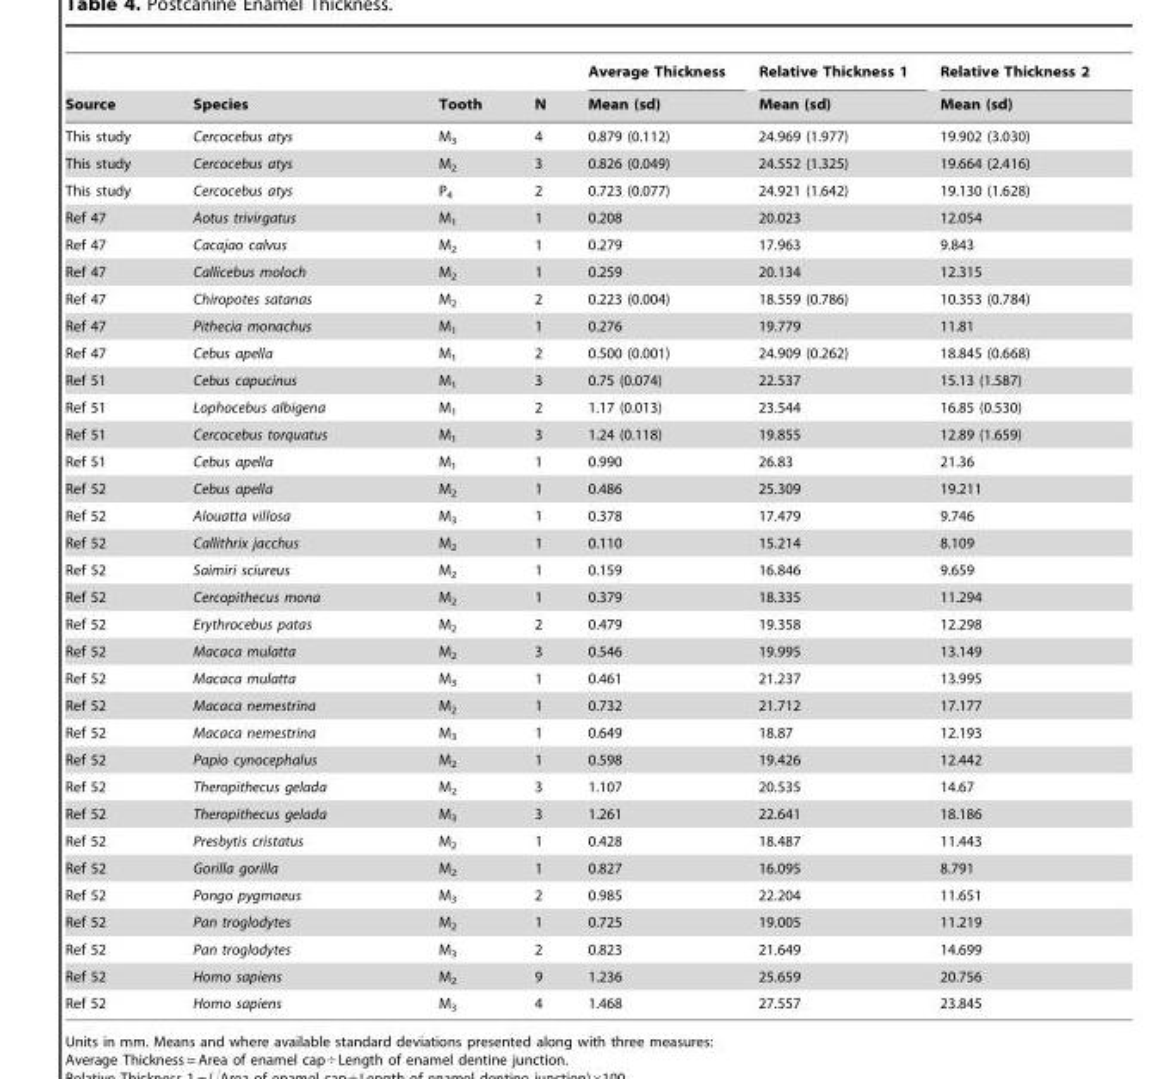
<table><thead><tr><td rowspan="2">Source</td><td rowspan="2">Species</td><td rowspan="2">Tooth</td><td rowspan="2">N</td><td rowspan="2">Average Thickness Mean (sd)</td><td rowspan="2">Relative Thickness 1 Mean (sd)</td><td rowspan="2">Relative Thickness 2 Mean (sd)</td></tr><tr></tr></thead><tbody><tr><td>This study</td><td>Cercocebus atys</td><td>M<sub>3</sub></td><td>4</td><td>0.879 (0.112)</td><td>24.969 (1.977)</td><td>19.902 (3.030)</td></tr><tr><td>This study</td><td>Cercocebus atys</td><td>M<sub>2</sub></td><td>3</td><td>0.826 (0.049)</td><td>24.552 (1.325)</td><td>19.664 (2.416)</td></tr><tr><td>This study</td><td>Cercocebus atys</td><td>P<sub>4</sub></td><td>2</td><td>0.723 (0.077)</td><td>24.921 (1.642)</td><td>19.130 (1.628)</td></tr><tr><td>Ref 47</td><td>Aotus trivirgatus</td><td>M<sub>1</sub></td><td>1</td><td>0.208</td><td>20.023</td><td>12.054</td></tr><tr><td>Ref 47</td><td>Cacajao calvus</td><td>M<sub>2</sub></td><td>1</td><td>0.279</td><td>17.963</td><td>9.843</td></tr><tr><td>Ref 47</td><td>Callicebus moloch</td><td>M<sub>2</sub></td><td>1</td><td>0.259</td><td>20.134</td><td>12.315</td></tr><tr><td>Ref 47</td><td>Chiropotes satanas</td><td>M<sub>2</sub></td><td>2</td><td>0.223 (0.004)</td><td>18.559 (0.786)</td><td>10.353 (0.784)</td></tr><tr><td>Ref 47</td><td>Pithecia monachus</td><td>M<sub>1</sub></td><td>1</td><td>0.276</td><td>19.779</td><td>11.81</td></tr><tr><td>Ref 47</td><td>Cebus apella</td><td>M<sub>1</sub></td><td>2</td><td>0.500 (0.001)</td><td>24.909 (0.262)</td><td>18.845 (0.668)</td></tr><tr><td>Ref 51</td><td>Cebus capucinus</td><td>M<sub>1</sub></td><td>3</td><td>0.75 (0.074)</td><td>22.537</td><td>15.13 (1.587)</td></tr><tr><td>Ref 51</td><td>Lophocebus albigena</td><td>M<sub>1</sub></td><td>2</td><td>1.17 (0.013)</td><td>23.544</td><td>16.85 (0.530)</td></tr><tr><td>Ref 51</td><td>Cercocebus torquatus</td><td>M<sub>1</sub></td><td>3</td><td>1.24 (0.118)</td><td>19.855</td><td>12.89 (1.659)</td></tr><tr><td>Ref 51</td><td>Cebus apella</td><td>M<sub>1</sub></td><td>1</td><td>0.990</td><td>26.83</td><td>21.36</td></tr><tr><td>Ref 52</td><td>Cebus apella</td><td>M<sub>2</sub></td><td>1</td><td>0.486</td><td>25.309</td><td>19.211</td></tr><tr><td>Ref 52</td><td>Alouatta villosa</td><td>M<sub>3</sub></td><td>1</td><td>0.378</td><td>17.479</td><td>9.746</td></tr><tr><td>Ref 52</td><td>Callithrix jacchus</td><td>M<sub>2</sub></td><td>1</td><td>0.110</td><td>15.214</td><td>8.109</td></tr><tr><td>Ref 52</td><td>Saimiri sciureus</td><td>M<sub>2</sub></td><td>1</td><td>0.159</td><td>16.846</td><td>9.659</td></tr><tr><td>Ref 52</td><td>Cercopithecus mona</td><td>M<sub>2</sub></td><td>1</td><td>0.379</td><td>18.335</td><td>11.294</td></tr><tr><td>Ref 52</td><td>Erythrocebus patas</td><td>M<sub>2</sub></td><td>2</td><td>0.479</td><td>19.358</td><td>12.298</td></tr><tr><td>Ref 52</td><td>Macaca mulatta</td><td>M<sub>2</sub></td><td>3</td><td>0.546</td><td>19.995</td><td>13.149</td></tr><tr><td>Ref 52</td><td>Macaca mulatta</td><td>M<sub>3</sub></td><td>1</td><td>0.461</td><td>21.237</td><td>13.995</td></tr><tr><td>Ref 52</td><td>Macaca nemestrina</td><td>M<sub>2</sub></td><td>1</td><td>0.732</td><td>21.712</td><td>17.177</td></tr><tr><td>Ref 52</td><td>Macaca nemestrina</td><td>M<sub>3</sub></td><td>1</td><td>0.649</td><td>18.87</td><td>12.193</td></tr><tr><td>Ref 52</td><td>Papio cynocephalus</td><td>M<sub>2</sub></td><td>1</td><td>0.598</td><td>19.426</td><td>12.442</td></tr><tr><td>Ref 52</td><td>Theropithecus gelada</td><td>M<sub>2</sub></td><td>3</td><td>1.107</td><td>20.535</td><td>14.67</td></tr><tr><td>Ref 52</td><td>Theropithecus gelada</td><td>M<sub>3</sub></td><td>3</td><td>1.261</td><td>22.641</td><td>18.186</td></tr><tr><td>Ref 52</td><td>Presbytis cristatus</td><td>M<sub>2</sub></td><td>1</td><td>0.428</td><td>18.487</td><td>11.443</td></tr><tr><td>Ref 52</td><td>Gorilla gorilla</td><td>M<sub>2</sub></td><td>1</td><td>0.827</td><td>16.095</td><td>8.791</td></tr><tr><td>Ref 52</td><td>Pongo pygmaeus</td><td>M<sub>3</sub></td><td>2</td><td>0.985</td><td>22.204</td><td>11.651</td></tr><tr><td>Ref 52</td><td>Pan troglodytes</td><td>M<sub>2</sub></td><td>1</td><td>0.725</td><td>19.005</td><td>11.219</td></tr><tr><td>Ref 52</td><td>Pan troglodytes</td><td>M<sub>3</sub></td><td>2</td><td>0.823</td><td>21.649</td><td>14.699</td></tr><tr><td>Ref 52</td><td>Homo sapiens</td><td>M<sub>2</sub></td><td>9</td><td>1.236</td><td>25.659</td><td>20.756</td></tr><tr><td>Ref 52</td><td>Homo sapiens</td><td>M<sub>3</sub></td><td>4</td><td>1.468</td><td>27.557</td><td>23.845</td></tr></tbody></table>